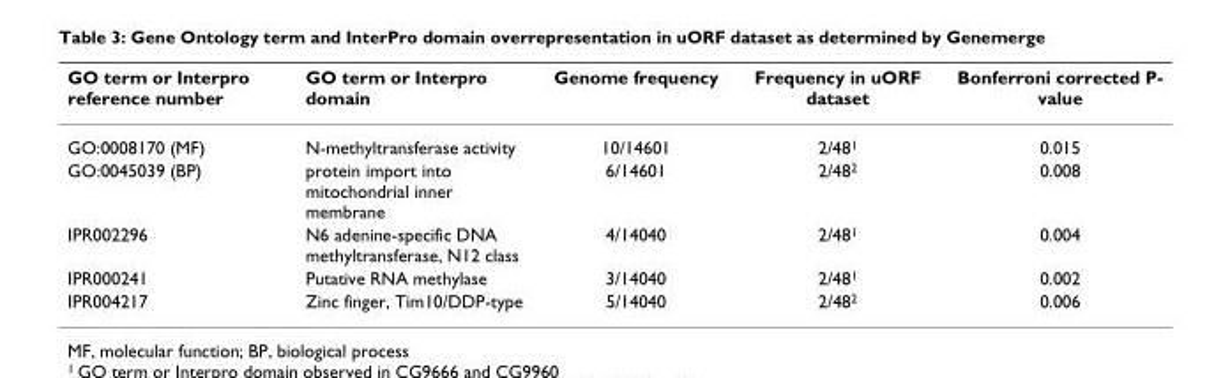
<table><thead><tr><td>GO term or Interpro reference number</td><td>GO term or Interpro domain</td><td>Genome frequency</td><td>Frequency in uORF dataset</td><td>Bonferroni corrected P- value</td></tr></thead><tbody><tr><td>GO:0008170 (MF)</td><td>N-methyltransferase activity</td><td>10/14601</td><td>2/48<sup>1</sup></td><td>0.015</td></tr><tr><td>GO:0045039 (BP)</td><td>protein import into mitochondrial inner membrane</td><td>6/14601</td><td>2/48<sup>2</sup></td><td>0.008</td></tr><tr><td>IPR002296</td><td>N6 adenine-specific DNA methyltransferase, N12 class</td><td>4/14040</td><td>2/48<sup>1</sup></td><td>0.004</td></tr><tr><td>IPR000241</td><td>Putative RNA methylase</td><td>3/14040</td><td>2/48<sup>1</sup></td><td>0.002</td></tr><tr><td>IPR004217</td><td>Zinc finger, Tim10/DDP-type</td><td>5/14040</td><td>2/48<sup>2</sup></td><td>0.006</td></tr></tbody></table>